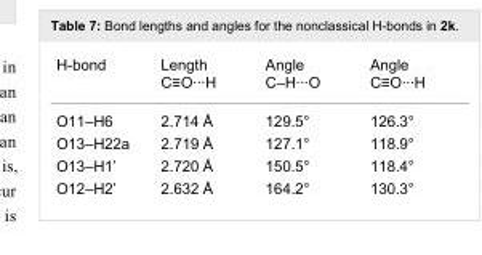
<table><tbody><tr><td>H-bond</td><td>Length C≡O···H</td><td>Angle C–H···O</td><td>Angle C≡O···H</td></tr><tr><td>O11–H6</td><td>2.714 Å</td><td>129.5°</td><td>126.3°</td></tr><tr><td>O13–H22a</td><td>2.719 Å</td><td>127.1°</td><td>118.9°</td></tr><tr><td>O13–H1’</td><td>2.720 Å</td><td>150.5°</td><td>118.4°</td></tr><tr><td>O12–H2’</td><td>2.632 Å</td><td>164.2°</td><td>130.3°</td></tr></tbody></table>